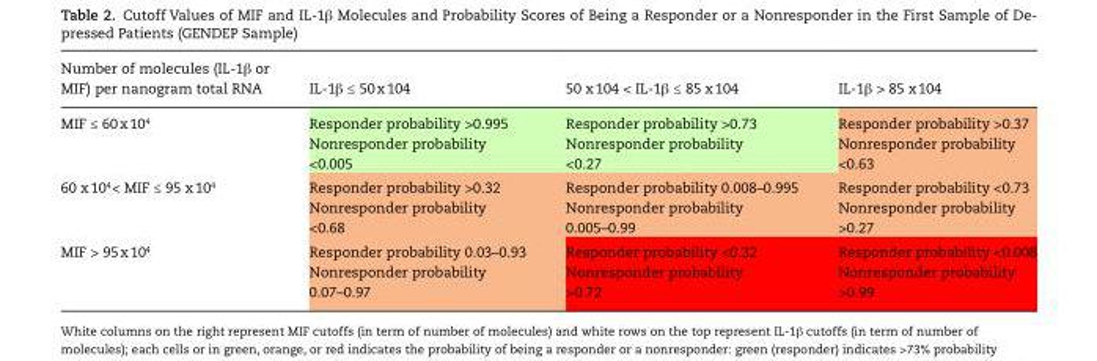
<table><thead><tr><td>Number of molecules (IL-1β or MIF) per nanogram total RNA</td><td>IL-1β ≤ 50 x 10<sup>4</sup></td><td>50 x 10<sup>4</sup> &lt; IL-1β ≤ 85 x 10<sup>4</sup></td><td>IL-1β &gt; 85 x 10<sup>4</sup></td></tr></thead><tbody><tr><td rowspan="2">MIF ≤ 60 x 10<sup>4</sup></td><td>Responder probability &gt;0.995</td><td>Responder probability &gt;0.73</td><td>Responder probability &gt;0.37</td></tr><tr><td>Nonresponder probability &lt;0.005</td><td>Nonresponder probability &lt;0.27</td><td>Nonresponder probability &lt;0.63</td></tr><tr><td rowspan="2">60 x 10<sup>4</sup> &lt; MIF ≤ 95 x 10<sup>4</sup></td><td>Responder probability &gt;0.32</td><td>Responder probability 0.008–0.995</td><td>Responder probability &lt;0.73</td></tr><tr><td>Nonresponder probability &lt;0.68</td><td>Nonresponder probability 0.005–0.99</td><td>Nonresponder probability &gt;0.27</td></tr><tr><td rowspan="2">MIF &gt; 95 x 10<sup>4</sup></td><td>Responder probability 0.03–0.93</td><td>Responder probability &lt;0.32</td><td>Responder probability &lt;0.008</td></tr><tr><td>Nonresponder probability 0.07–0.97</td><td>Nonresponder probability &gt;0.72</td><td>Nonresponder probability &gt;0.99</td></tr></tbody></table>